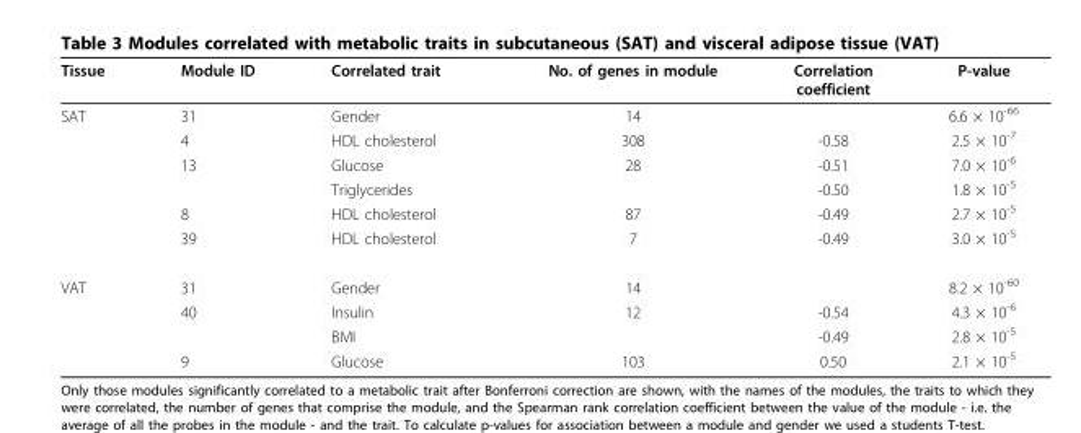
<table><thead><tr><td>Tissue</td><td>Module ID</td><td>Correlated trait</td><td>No. of genes in module</td><td>Correlation coefficient</td><td>P-value</td></tr></thead><tbody><tr><td rowspan="6">SAT</td><td>31</td><td>Gender</td><td>14</td><td></td><td>6.6 × 10<sup>-66</sup></td></tr><tr><td>4</td><td>HDL cholesterol</td><td>308</td><td>-0.58</td><td>2.5 × 10<sup>-7</sup></td></tr><tr><td>13</td><td>Glucose</td><td>28</td><td>-0.51</td><td>7.0 × 10<sup>-6</sup></td></tr><tr><td></td><td>Triglycerides</td><td></td><td>-0.50</td><td>1.8 × 10<sup>-5</sup></td></tr><tr><td>8</td><td>HDL cholesterol</td><td>87</td><td>-0.49</td><td>2.7 × 10<sup>-5</sup></td></tr><tr><td>39</td><td>HDL cholesterol</td><td>7</td><td>-0.49</td><td>3.0 × 10<sup>-5</sup></td></tr><tr><td rowspan="4">VAT</td><td>31</td><td>Gender</td><td>14</td><td></td><td>8.2 × 10<sup>-60</sup></td></tr><tr><td>40</td><td>Insulin</td><td>12</td><td>-0.54</td><td>4.3 × 10<sup>-6</sup></td></tr><tr><td></td><td>BMI</td><td></td><td>-0.49</td><td>2.8 × 10<sup>-5</sup></td></tr><tr><td>9</td><td>Glucose</td><td>103</td><td>0.50</td><td>2.1 × 10<sup>-5</sup></td></tr></tbody></table>